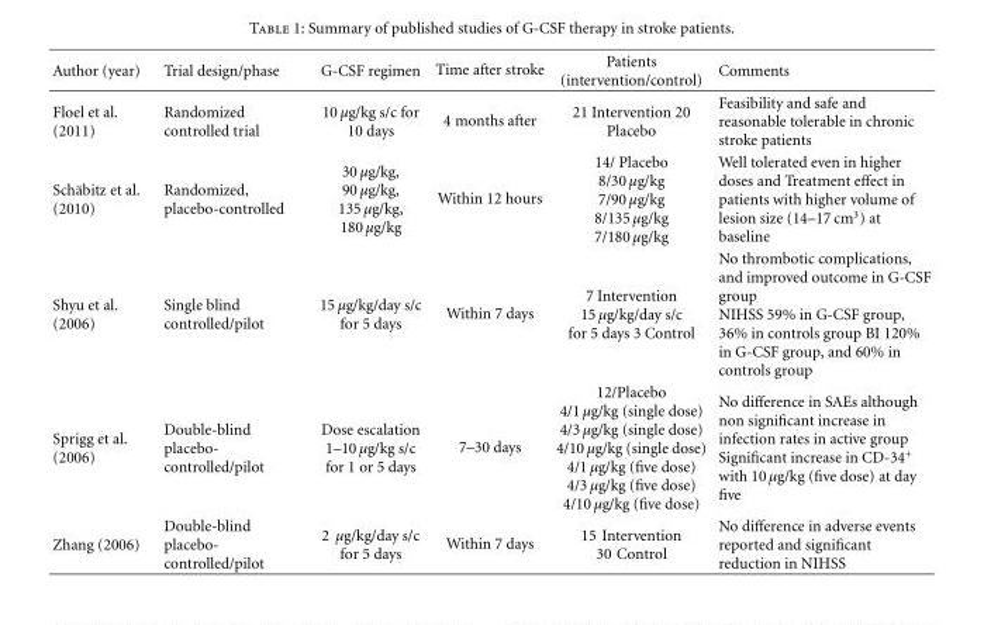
<table><thead><tr><td>Author (year)</td><td>Trial design/phase</td><td>G-CSF regimen</td><td>Time after stroke</td><td>Patients (intervention/control)</td><td>Comments</td></tr></thead><tbody><tr><td>Floel et al. (2011)</td><td>Randomized controlled trial</td><td>10 µg/kg s/c for 10 days</td><td>4 months after</td><td>21 Intervention 20 Placebo</td><td>Feasibility and safe and reasonable tolerable in chronic stroke patients</td></tr><tr><td>Sch¨abitz et al. (2010)</td><td>Randomized, placebo-controlled</td><td>30 µg/kg, 90 µg/kg, 135 µg/kg, 180 µg/kg</td><td>Within 12 hours</td><td>14/ Placebo 8/30 µg/kg 7/90 µg/kg 8/135 µg/kg 7/180 µg/kg</td><td>Well tolerated even in higher doses and Treatment effect in patients with higher volume of lesion size (14–17 cm3) at baseline</td></tr><tr><td>Shyu et al. (2006)</td><td>Single blind controlled/pilot</td><td>15 µg/kg/day s/c for 5 days</td><td>Within 7 days</td><td>7 Intervention 15 µg/kg/day s/c for 5 days 3 Control</td><td>No thrombotic complications, and improved outcome in G-CSF group NIHSS 59% in G-CSF group, 36% in controls group BI 120% in G-CSF group, and 60% in controls group</td></tr><tr><td>Sprigg et al. (2006)</td><td>Double-blind placebo- controlled/pilot</td><td>Dose escalation 1–10 µg/kg s/c for 1 or 5 days</td><td>7–30 days</td><td>12/Placebo 4/1 µg/kg (single dose) 4/3 µg/kg (single dose) 4/10 µg/kg (single dose) 4/1 µg/kg (five dose) 4/3 µg/kg (five dose) 4/10 µg/kg (five dose)</td><td>No difference in SAEs although non significant increase in infection rates in active group Significant increase in CD-34<sup>+</sup> with 10 µg/kg (five dose) at day five</td></tr><tr><td>Zhang (2006)</td><td>Double-blind placebo- controlled/pilot</td><td>2 µg/kg/day s/c for 5 days</td><td>Within 7 days</td><td>15 Intervention 30 Control</td><td>No difference in adverse events reported and significant reduction in NIHSS</td></tr></tbody></table>